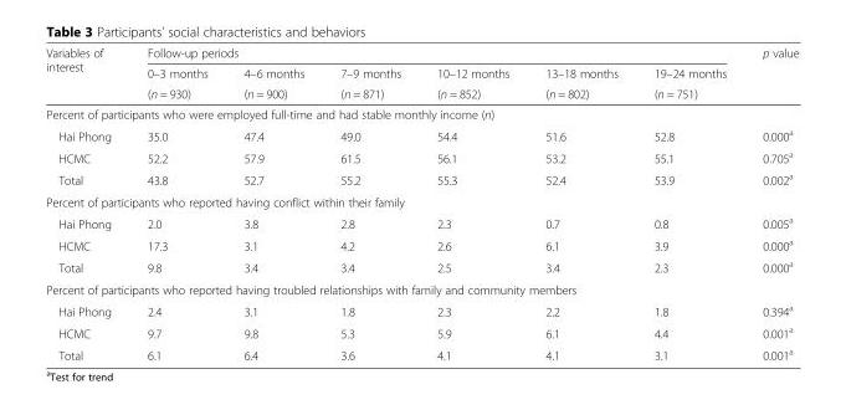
<table><thead><tr><td rowspan="3">Variables of interest</td><td colspan="6">Follow-up periods</td><td rowspan="3">p value</td></tr><tr><td rowspan="2">0–3 months (n = 930)</td><td rowspan="2">4–6 months (n = 900)</td><td rowspan="2">7–9 months (n = 871)</td><td rowspan="2">10–12 months (n = 852)</td><td rowspan="2">13–18 months (n = 802)</td><td rowspan="2">19–24 months (n = 751)</td></tr><tr></tr></thead><tbody><tr><td colspan="8">Percent of participants who were employed full-time and had stable monthly income (n)</td></tr><tr><td>Hai Phong</td><td>35.0</td><td>47.4</td><td>49.0</td><td>54.4</td><td>51.6</td><td>52.8</td><td>0.000<sup>a</sup></td></tr><tr><td>HCMC</td><td>52.2</td><td>57.9</td><td>61.5</td><td>56.1</td><td>53.2</td><td>55.1</td><td>0.705<sup>a</sup></td></tr><tr><td>Total</td><td>43.8</td><td>52.7</td><td>55.2</td><td>55.3</td><td>52.4</td><td>53.9</td><td>0.002<sup>a</sup></td></tr><tr><td colspan="8">Percent of participants who reported having conflict within their family</td></tr><tr><td>Hai Phong</td><td>2.0</td><td>3.8</td><td>2.8</td><td>2.3</td><td>0.7</td><td>0.8</td><td>0.005<sup>a</sup></td></tr><tr><td>HCMC</td><td>17.3</td><td>3.1</td><td>4.2</td><td>2.6</td><td>6.1</td><td>3.9</td><td>0.000<sup>a</sup></td></tr><tr><td>Total</td><td>9.8</td><td>3.4</td><td>3.4</td><td>2.5</td><td>3.4</td><td>2.3</td><td>0.000<sup>a</sup></td></tr><tr><td colspan="8">Percent of participants who reported having troubled relationships with family and community members</td></tr><tr><td>Hai Phong</td><td>2.4</td><td>3.1</td><td>1.8</td><td>2.3</td><td>2.2</td><td>1.8</td><td>0.394<sup>a</sup></td></tr><tr><td>HCMC</td><td>9.7</td><td>9.8</td><td>5.3</td><td>5.9</td><td>6.1</td><td>4.4</td><td>0.001<sup>a</sup></td></tr><tr><td>Total</td><td>6.1</td><td>6.4</td><td>3.6</td><td>4.1</td><td>4.1</td><td>3.1</td><td>0.001<sup>a</sup></td></tr></tbody></table>